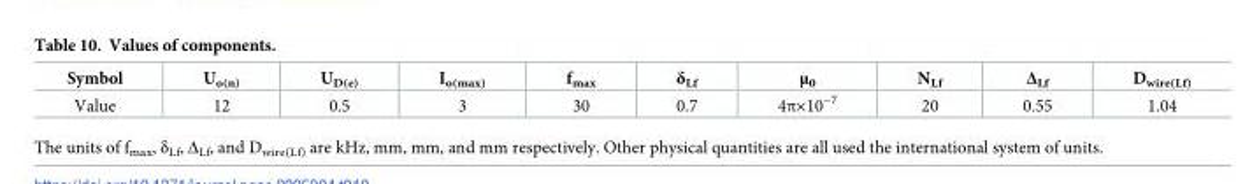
<table><thead><tr><td>Symbol</td><td>U<sub>o(n)</sub></td><td>U<sub>D(e)</sub></td><td>I<sub>o(max)</sub></td><td>f<sub>max</sub></td><td>δ<sub>Lf</sub></td><td>μ<sub>0</sub></td><td>N<sub>Lf</sub></td><td>Δ<sub>Lf</sub></td><td>D<sub>wire(Lf)</sub></td></tr></thead><tbody><tr><td>Value</td><td>12</td><td>0.5</td><td>3</td><td>30</td><td>0.7</td><td>4π×10<sup>−7</sup></td><td>20</td><td>0.55</td><td>1.04</td></tr></tbody></table>